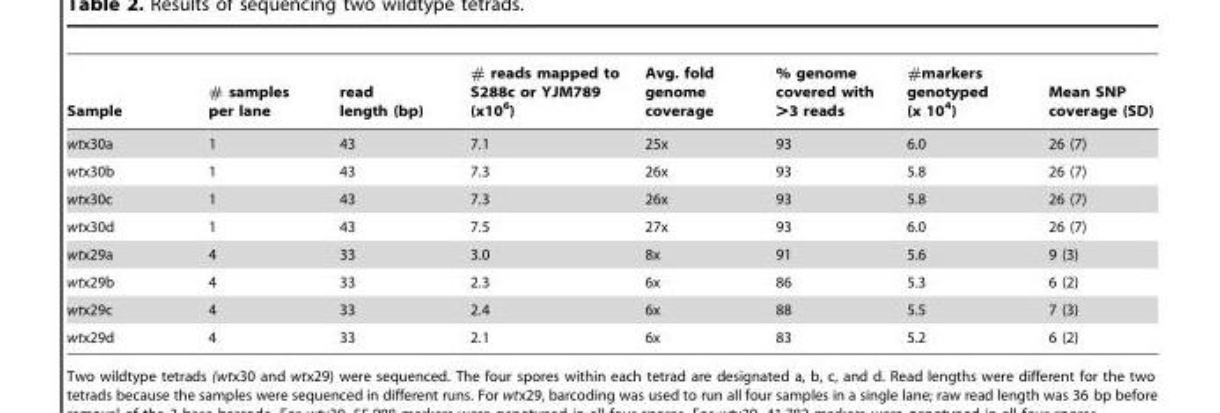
<table><thead><tr><td>Sample</td><td># samples per lane</td><td>read length (bp)</td><td># reads mapped to S288c or YJM789 (x10<sup>6</sup>)</td><td>Avg. fold genome coverage</td><td>% genome covered with &gt;3 reads</td><td>#markers genotyped (x 10<sup>4</sup>)</td><td>Mean SNP coverage (SD)</td></tr></thead><tbody><tr><td>wtx30a</td><td>1</td><td>43</td><td>7.1</td><td>25x</td><td>93</td><td>6.0</td><td>26 (7)</td></tr><tr><td>wtx30b</td><td>1</td><td>43</td><td>7.3</td><td>26x</td><td>93</td><td>5.8</td><td>26 (7)</td></tr><tr><td>wtx30c</td><td>1</td><td>43</td><td>7.3</td><td>26x</td><td>93</td><td>5.8</td><td>26 (7)</td></tr><tr><td>wtx30d</td><td>1</td><td>43</td><td>7.5</td><td>27x</td><td>93</td><td>6.0</td><td>26 (7)</td></tr><tr><td>wtx29a</td><td>4</td><td>33</td><td>3.0</td><td>8x</td><td>91</td><td>5.6</td><td>9 (3)</td></tr><tr><td>wtx29b</td><td>4</td><td>33</td><td>2.3</td><td>6x</td><td>86</td><td>5.3</td><td>6 (2)</td></tr><tr><td>wtx29c</td><td>4</td><td>33</td><td>2.4</td><td>6x</td><td>88</td><td>5.5</td><td>7 (3)</td></tr><tr><td>wtx29d</td><td>4</td><td>33</td><td>2.1</td><td>6x</td><td>83</td><td>5.2</td><td>6 (2)</td></tr></tbody></table>